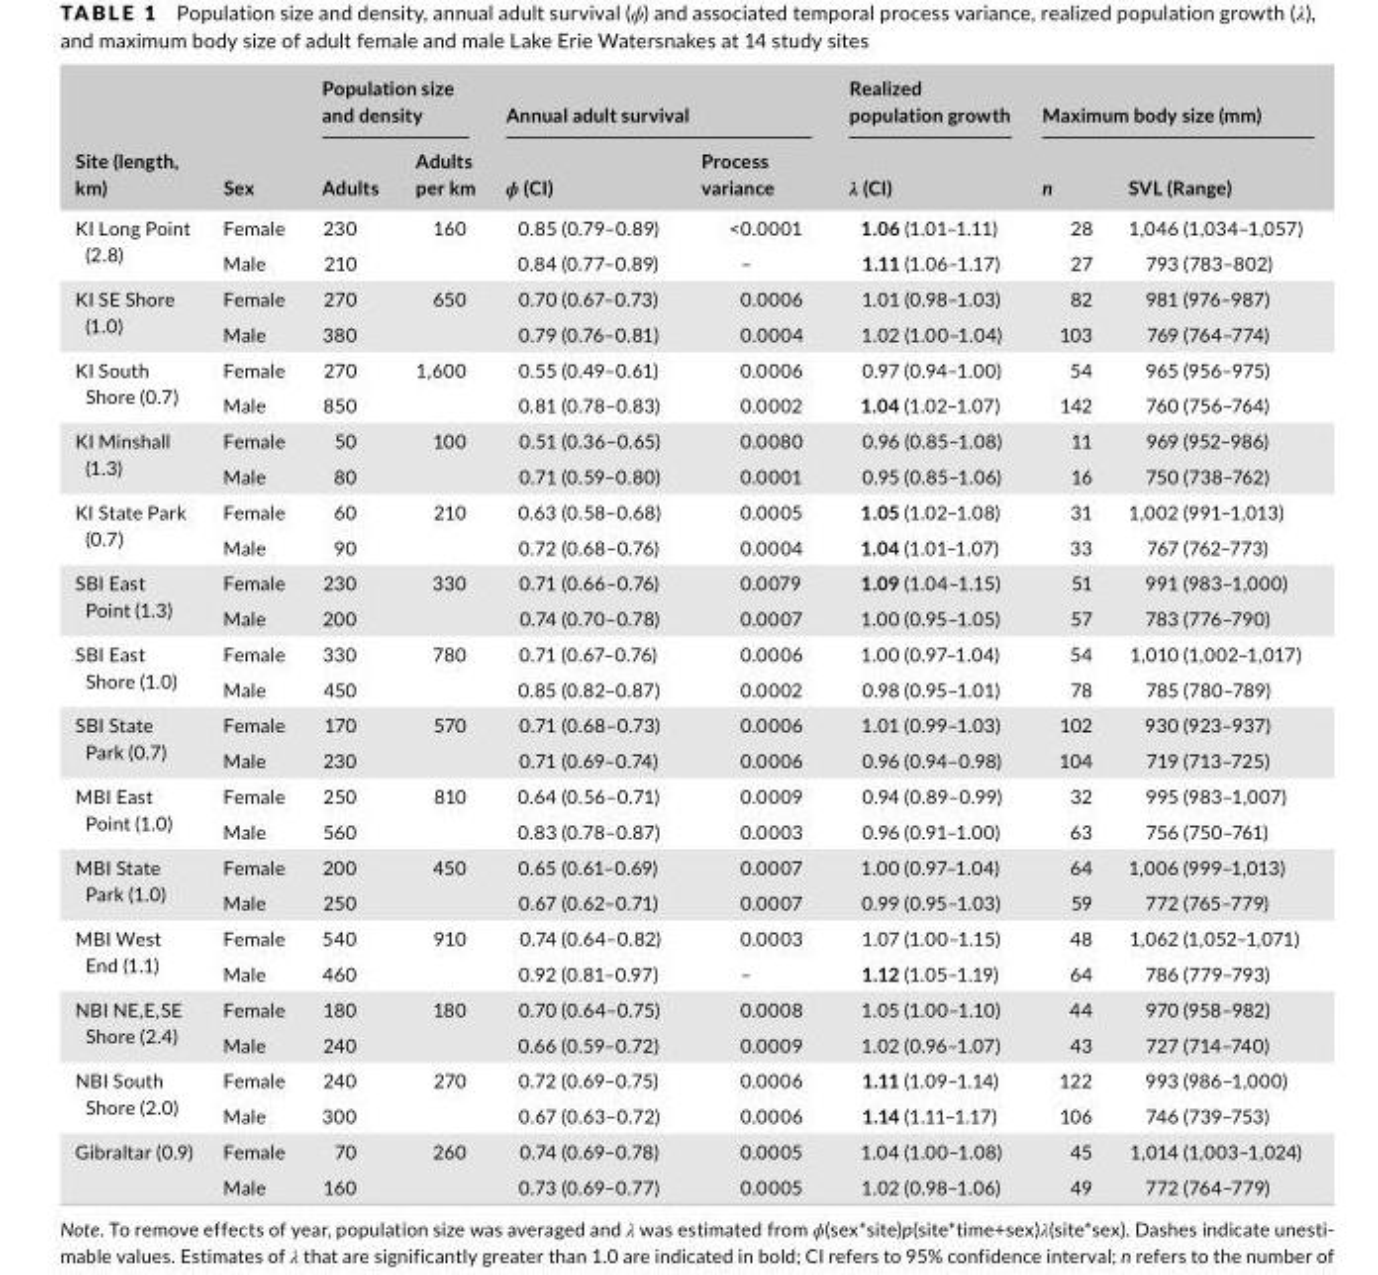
<table><thead><tr><td rowspan="2">Site (length, km)</td><td rowspan="2">Sex</td><td colspan="2">Population size and density</td><td colspan="2">Annual adult survival</td><td rowspan="2">Realized population growth λ (CI)</td><td colspan="2">Maximum body size (mm)</td></tr><tr><td>Adults</td><td>Adults per km</td><td>ϕ (CI)</td><td>Process variance</td><td>n</td><td>SVL (Range)</td></tr></thead><tbody><tr><td rowspan="2">KI Long Point (2.8)</td><td>Female</td><td>230</td><td rowspan="2">160</td><td>0.85 (0.79–0.89)</td><td>&lt;0.0001</td><td>1.06 (1.01–1.11)</td><td>28</td><td>1,046 (1,034–1,057)</td></tr><tr><td>Male</td><td>210</td><td>0.84 (0.77–0.89)</td><td>–</td><td>1.11 (1.06–1.17)</td><td>27</td><td>793 (783–802)</td></tr><tr><td rowspan="2">KI SE Shore (1.0)</td><td>Female</td><td>270</td><td rowspan="2">650</td><td>0.70 (0.67–0.73)</td><td>0.0006</td><td>1.01 (0.98–1.03)</td><td>82</td><td>981 (976–987)</td></tr><tr><td>Male</td><td>380</td><td>0.79 (0.76–0.81)</td><td>0.0004</td><td>1.02 (1.00–1.04)</td><td>103</td><td>769 (764–774)</td></tr><tr><td rowspan="2">KI South Shore (0.7)</td><td>Female</td><td>270</td><td rowspan="2">1,600</td><td>0.55 (0.49–0.61)</td><td>0.0006</td><td>0.97 (0.94–1.00)</td><td>54</td><td>965 (956–975)</td></tr><tr><td>Male</td><td>850</td><td>0.81 (0.78–0.83)</td><td>0.0002</td><td>1.04 (1.02–1.07)</td><td>142</td><td>760 (756–764)</td></tr><tr><td rowspan="2">KI Minshall (1.3)</td><td>Female</td><td>50</td><td rowspan="2">100</td><td>0.51 (0.36–0.65)</td><td>0.0080</td><td>0.96 (0.85–1.08)</td><td>11</td><td>969 (952–986)</td></tr><tr><td>Male</td><td>80</td><td>0.71 (0.59–0.80)</td><td>0.0001</td><td>0.95 (0.85–1.06)</td><td>16</td><td>750 (738–762)</td></tr><tr><td rowspan="2">KI State Park (0.7)</td><td>Female</td><td>60</td><td rowspan="2">210</td><td>0.63 (0.58–0.68)</td><td>0.0005</td><td>1.05 (1.02–1.08)</td><td>31</td><td>1,002 (991–1,013)</td></tr><tr><td>Male</td><td>90</td><td>0.72 (0.68–0.76)</td><td>0.0004</td><td>1.04 (1.01–1.07)</td><td>33</td><td>767 (762–773)</td></tr><tr><td rowspan="2">SBI East Point (1.3)</td><td>Female</td><td>230</td><td rowspan="2">330</td><td>0.71 (0.66–0.76)</td><td>0.0079</td><td>1.09 (1.04–1.15)</td><td>51</td><td>991 (983–1,000)</td></tr><tr><td>Male</td><td>200</td><td>0.74 (0.70–0.78)</td><td>0.0007</td><td>1.00 (0.95–1.05)</td><td>57</td><td>783 (776–790)</td></tr><tr><td rowspan="2">SBI East Shore (1.0)</td><td>Female</td><td>330</td><td rowspan="2">780</td><td>0.71 (0.67–0.76)</td><td>0.0006</td><td>1.00 (0.97–1.04)</td><td>54</td><td>1,010 (1,002–1,017)</td></tr><tr><td>Male</td><td>450</td><td>0.85 (0.82–0.87)</td><td>0.0002</td><td>0.98 (0.95–1.01)</td><td>78</td><td>785 (780–789)</td></tr><tr><td rowspan="2">SBI State Park (0.7)</td><td>Female</td><td>170</td><td rowspan="2">570</td><td>0.71 (0.68–0.73)</td><td>0.0006</td><td>1.01 (0.99–1.03)</td><td>102</td><td>930 (923–937)</td></tr><tr><td>Male</td><td>230</td><td>0.71 (0.69–0.74)</td><td>0.0006</td><td>0.96 (0.94–0.98)</td><td>104</td><td>719 (713–725)</td></tr><tr><td rowspan="2">MBI East Point (1.0)</td><td>Female</td><td>250</td><td rowspan="2">810</td><td>0.64 (0.56–0.71)</td><td>0.0009</td><td>0.94 (0.89–0.99)</td><td>32</td><td>995 (983–1,007)</td></tr><tr><td>Male</td><td>560</td><td>0.83 (0.78–0.87)</td><td>0.0003</td><td>0.96 (0.91–1.00)</td><td>63</td><td>756 (750–761)</td></tr><tr><td rowspan="2">MBI State Park (1.0)</td><td>Female</td><td>200</td><td rowspan="2">450</td><td>0.65 (0.61–0.69)</td><td>0.0007</td><td>1.00 (0.97–1.04)</td><td>64</td><td>1,006 (999–1,013)</td></tr><tr><td>Male</td><td>250</td><td>0.67 (0.62–0.71)</td><td>0.0007</td><td>0.99 (0.95–1.03)</td><td>59</td><td>772 (765–779)</td></tr><tr><td rowspan="2">MBI West End (1.1)</td><td>Female</td><td>540</td><td rowspan="2">910</td><td>0.74 (0.64–0.82)</td><td>0.0003</td><td>1.07 (1.00–1.15)</td><td>48</td><td>1,062 (1,052–1,071)</td></tr><tr><td>Male</td><td>460</td><td>0.92 (0.81–0.97)</td><td>–</td><td>1.12 (1.05–1.19)</td><td>64</td><td>786 (779–793)</td></tr><tr><td rowspan="2">NBI NE,E,SE Shore (2.4)</td><td>Female</td><td>180</td><td rowspan="2">180</td><td>0.70 (0.64–0.75)</td><td>0.0008</td><td>1.05 (1.00–1.10)</td><td>44</td><td>970 (958–982)</td></tr><tr><td>Male</td><td>240</td><td>0.66 (0.59–0.72)</td><td>0.0009</td><td>1.02 (0.96–1.07)</td><td>43</td><td>727 (714–740)</td></tr><tr><td rowspan="2">NBI South Shore (2.0)</td><td>Female</td><td>240</td><td rowspan="2">270</td><td>0.72 (0.69–0.75)</td><td>0.0006</td><td>1.11 (1.09–1.14)</td><td>122</td><td>993 (986–1,000)</td></tr><tr><td>Male</td><td>300</td><td>0.67 (0.63–0.72)</td><td>0.0006</td><td>1.14 (1.11–1.17)</td><td>106</td><td>746 (739–753)</td></tr><tr><td rowspan="2">Gibraltar (0.9)</td><td>Female</td><td>70</td><td rowspan="2">260</td><td>0.74 (0.69–0.78)</td><td>0.0005</td><td>1.04 (1.00–1.08)</td><td>45</td><td>1,014 (1,003–1,024)</td></tr><tr><td>Male</td><td>160</td><td>0.73 (0.69–0.77)</td><td>0.0005</td><td>1.02 (0.98–1.06)</td><td>49</td><td>772 (764–779)</td></tr></tbody></table>